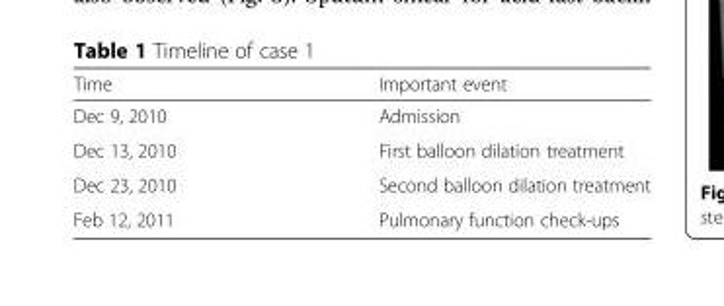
<table><thead><tr><td>Time</td><td>Important event</td></tr></thead><tbody><tr><td>Dec 9, 2010</td><td>Admission</td></tr><tr><td>Dec 13, 2010</td><td>First balloon dilation treatment</td></tr><tr><td>Dec 23, 2010</td><td>Second balloon dilation treatment</td></tr><tr><td>Feb 12, 2011</td><td>Pulmonary function check-ups</td></tr></tbody></table>